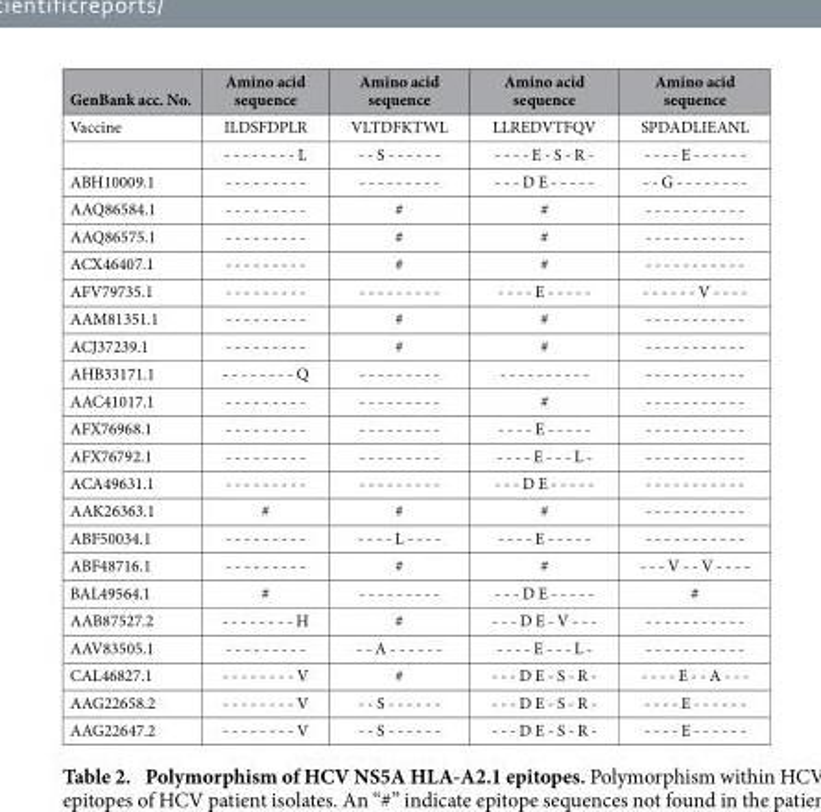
<table><thead><tr><td>GenBank acc. No.</td><td>Amino acid sequence</td><td>Amino acid sequence</td><td>Amino acid sequence</td><td>Amino acid sequence</td></tr></thead><tbody><tr><td rowspan="2">Vaccine</td><td>ILDSFDPLR</td><td>VLTDFKTWL</td><td>LLREDVTFQV</td><td>SPDADLIEANL</td></tr><tr><td>- - - - - - - - L</td><td>- - S - - - - - -</td><td>- - - - E - S - R -</td><td>- - - - E - - - - - -</td></tr><tr><td>ABH10009.1</td><td>- - - - - - - - -</td><td>- - - - - - - - -</td><td>- - - D E - - - - -</td><td>- - G - - - - - - - -</td></tr><tr><td>AAQ86584.1</td><td>- - - - - - - - -</td><td>#</td><td>#</td><td>- - - - - - - - - - -</td></tr><tr><td>AAQ86575.1</td><td>- - - - - - - - -</td><td>#</td><td>#</td><td>- - - - - - - - - - -</td></tr><tr><td>ACX46407.1</td><td>- - - - - - - - -</td><td>#</td><td>#</td><td>- - - - - - - - - - -</td></tr><tr><td>AFV79735.1</td><td>- - - - - - - - -</td><td>- - - - - - - - -</td><td>- - - - E - - - - -</td><td>- - - - - - V - - - -</td></tr><tr><td>AAM81351.1</td><td>- - - - - - - - -</td><td>#</td><td>#</td><td>- - - - - - - - - - -</td></tr><tr><td>ACJ37239.1</td><td>- - - - - - - - -</td><td>#</td><td>#</td><td>- - - - - - - - - - -</td></tr><tr><td>AHB33171.1</td><td>- - - - - - - - Q</td><td>- - - - - - - - -</td><td>- - - - - - - - - -</td><td>- - - - - - - - - - -</td></tr><tr><td>AAC41017.1</td><td>- - - - - - - - -</td><td>- - - - - - - - -</td><td>#</td><td>- - - - - - - - - - -</td></tr><tr><td>AFX76968.1</td><td>- - - - - - - - -</td><td>- - - - - - - - -</td><td>- - - - E - - - - -</td><td>- - - - - - - - - - -</td></tr><tr><td>AFX76792.1</td><td>- - - - - - - - -</td><td>- - - - - - - - -</td><td>- - - - E - - - L -</td><td>- - - - - - - - - - -</td></tr><tr><td>ACA49631.1</td><td>- - - - - - - - -</td><td>- - - - - - - - -</td><td>- - - D E - - - - -</td><td>- - - - - - - - - - -</td></tr><tr><td>AAK26363.1</td><td>#</td><td>#</td><td>#</td><td>- - - - - - - - - - -</td></tr><tr><td>ABF50034.1</td><td>- - - - - - - - -</td><td>- - - - L - - - -</td><td>- - - - E - - - - -</td><td>- - - - - - - - - - -</td></tr><tr><td>ABF48716.1</td><td>- - - - - - - - -</td><td>#</td><td>#</td><td>- - - V - - V - - - -</td></tr><tr><td>BAL49564.1</td><td>#</td><td>- - - - - - - - -</td><td>- - - D E - - - - -</td><td>#</td></tr><tr><td>AAB87527.2</td><td>- - - - - - - - H</td><td>#</td><td>- - - D E - V - - -</td><td>- - - - - - - - - - -</td></tr><tr><td>AAV83505.1</td><td>- - - - - - - - -</td><td>- - A - - - - - -</td><td>- - - - E - - - L -</td><td>- - - - - - - - - - -</td></tr><tr><td>CAL46827.1</td><td>- - - - - - - - V</td><td>#</td><td>- - - D E - S - R -</td><td>- - - - E - - A - - -</td></tr><tr><td>AAG22658.2</td><td>- - - - - - - - V</td><td>- - S - - - - - -</td><td>- - - D E - S - R -</td><td>- - - - E - - - - - -</td></tr><tr><td>AAG22647.2</td><td>- - - - - - - - V</td><td>- - S - - - - - -</td><td>- - - D E - S - R -</td><td>- - - - E - - - - - -</td></tr></tbody></table>